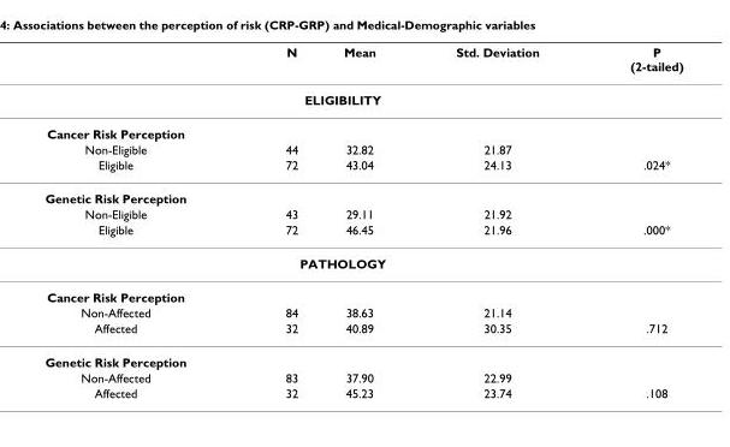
<table><thead><tr><td></td><td>N</td><td>Mean</td><td>Std. Deviation</td><td>P (2-tailed)</td></tr></thead><tbody><tr><td colspan="5">ELIGIBILITY</td></tr><tr><td colspan="5">Cancer Risk Perception</td></tr><tr><td>Non-Eligible</td><td>44</td><td>32.82</td><td>21.87</td><td></td></tr><tr><td>Eligible</td><td>72</td><td>43.04</td><td>24.13</td><td>.024*</td></tr><tr><td colspan="5">Genetic Risk Perception</td></tr><tr><td>Non-Eligible</td><td>43</td><td>29.11</td><td>21.92</td><td></td></tr><tr><td>Eligible</td><td>72</td><td>46.45</td><td>21.96</td><td>.000*</td></tr><tr><td colspan="5">PATHOLOGY</td></tr><tr><td colspan="5">Cancer Risk Perception</td></tr><tr><td>Non-Affected</td><td>84</td><td>38.63</td><td>21.14</td><td></td></tr><tr><td>Affected</td><td>32</td><td>40.89</td><td>30.35</td><td>.712</td></tr><tr><td colspan="5">Genetic Risk Perception</td></tr><tr><td>Non-Affected</td><td>83</td><td>37.90</td><td>22.99</td><td></td></tr><tr><td>Affected</td><td>32</td><td>45.23</td><td>23.74</td><td>.108</td></tr></tbody></table>